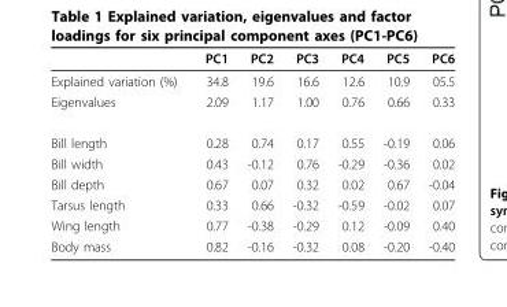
<table><thead><tr><td></td><td>PC1</td><td>PC2</td><td>PC3</td><td>PC4</td><td>PC5</td><td>PC6</td></tr></thead><tbody><tr><td>Explained variation (%)</td><td>34.8</td><td>19.6</td><td>16.6</td><td>12.6</td><td>10.9</td><td>05.5</td></tr><tr><td>Eigenvalues</td><td>2.09</td><td>1.17</td><td>1.00</td><td>0.76</td><td>0.66</td><td>0.33</td></tr><tr><td>Bill length</td><td>0.28</td><td>0.74</td><td>0.17</td><td>0.55</td><td>-0.19</td><td>0.06</td></tr><tr><td>Bill width</td><td>0.43</td><td>-0.12</td><td>0.76</td><td>-0.29</td><td>-0.36</td><td>0.02</td></tr><tr><td>Bill depth</td><td>0.67</td><td>0.07</td><td>0.32</td><td>0.02</td><td>0.67</td><td>-0.04</td></tr><tr><td>Tarsus length</td><td>0.33</td><td>0.66</td><td>-0.32</td><td>-0.59</td><td>-0.02</td><td>0.07</td></tr><tr><td>Wing length</td><td>0.77</td><td>-0.38</td><td>-0.29</td><td>0.12</td><td>-0.09</td><td>0.40</td></tr><tr><td>Body mass</td><td>0.82</td><td>-0.16</td><td>-0.32</td><td>0.08</td><td>-0.20</td><td>-0.40</td></tr></tbody></table>